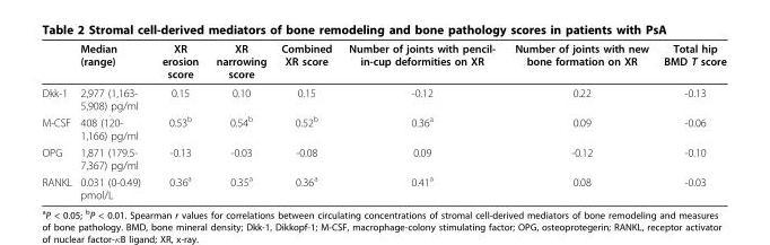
<table><thead><tr><td></td><td>Median (range)</td><td>XR erosion score</td><td>XR narrowing score</td><td>Combined XR score</td><td>Number of joints with pencil- in-cup deformities on XR</td><td>Number of joints with new bone formation on XR</td><td>Total hip BMD T score</td></tr></thead><tbody><tr><td>Dkk-1</td><td>2,977 (1,163- 5,908) pg/ml</td><td>0.15</td><td>0.10</td><td>0.15</td><td>-0.12</td><td>0.22</td><td>-0.13</td></tr><tr><td>M-CSF</td><td>408 (120- 1,166) pg/ml</td><td>0.53<sup>b</sup></td><td>0.54<sup>b</sup></td><td>0.52<sup>b</sup></td><td>0.36<sup>a</sup></td><td>0.09</td><td>-0.06</td></tr><tr><td>OPG</td><td>1,871 (179.5- 7,367) pg/ml</td><td>-0.13</td><td>-0.03</td><td>-0.08</td><td>0.09</td><td>-0.12</td><td>-0.10</td></tr><tr><td>RANKL</td><td>0.031 (0-0.49) pmol/L</td><td>0.36<sup>a</sup></td><td>0.35<sup>a</sup></td><td>0.36<sup>a</sup></td><td>0.41<sup>a</sup></td><td>0.08</td><td>-0.03</td></tr></tbody></table>